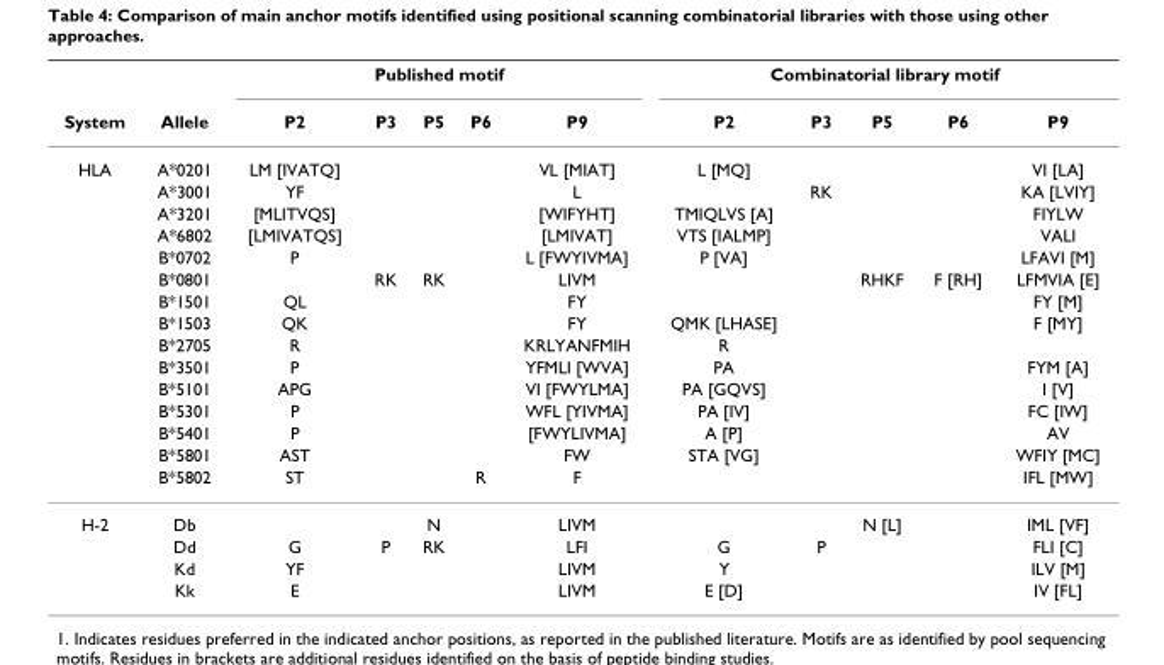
<table><thead><tr><td rowspan="2">System</td><td rowspan="2">Allele</td><td colspan="5">Published motif</td><td colspan="5">Combinatorial library motif</td></tr><tr><td>P2</td><td>P3</td><td>P5</td><td>P6</td><td>P9</td><td>P2</td><td>P3</td><td>P5</td><td>P6</td><td>P9</td></tr></thead><tbody><tr><td rowspan="15">HLA</td><td>A*0201</td><td>LM [IVATQ]</td><td></td><td></td><td></td><td>VL [MIAT]</td><td>L [MQ]</td><td></td><td></td><td></td><td>VI [LA]</td></tr><tr><td>A*3001</td><td>YF</td><td></td><td></td><td></td><td>L</td><td></td><td>RK</td><td></td><td></td><td>KA [LVIY]</td></tr><tr><td>A*3201</td><td>[MLITVQS]</td><td></td><td></td><td></td><td>[WIFYHT]</td><td>TMIQLVS [A]</td><td></td><td></td><td></td><td>FIYLW</td></tr><tr><td>A*6802</td><td>[LMIVATQS]</td><td></td><td></td><td></td><td>[LMIVAT]</td><td>VTS [IALMP]</td><td></td><td></td><td></td><td>VALI</td></tr><tr><td>B*0702</td><td>P</td><td></td><td></td><td></td><td>L [FWYIVMA]</td><td>P [VA]</td><td></td><td></td><td></td><td>LFAVI [M]</td></tr><tr><td>B*0801</td><td></td><td>RK</td><td>RK</td><td></td><td>LIVM</td><td></td><td></td><td>RHKF</td><td>F [RH]</td><td>LFMVIA [E]</td></tr><tr><td>B*1501</td><td>QL</td><td></td><td></td><td></td><td>FY</td><td></td><td></td><td></td><td></td><td>FY [M]</td></tr><tr><td>B*1503</td><td>QK</td><td></td><td></td><td></td><td>FY</td><td>QMK [LHASE]</td><td></td><td></td><td></td><td>F [MY]</td></tr><tr><td>B*2705</td><td>R</td><td></td><td></td><td></td><td>KRLYANFMIH</td><td>R</td><td></td><td></td><td></td><td></td></tr><tr><td>B*3501</td><td>P</td><td></td><td></td><td></td><td>YFMLI [WVA]</td><td>PA</td><td></td><td></td><td></td><td>FYM [A]</td></tr><tr><td>B*5101</td><td>APG</td><td></td><td></td><td></td><td>VI [FWYLMA]</td><td>PA [GQVS]</td><td></td><td></td><td></td><td>I [V]</td></tr><tr><td>B*5301</td><td>P</td><td></td><td></td><td></td><td>WFL [YIVMA]</td><td>PA [IV]</td><td></td><td></td><td></td><td>FC [IW]</td></tr><tr><td>B*5401</td><td>P</td><td></td><td></td><td></td><td>[FWYLIVMA]</td><td>A [P]</td><td></td><td></td><td></td><td>AV</td></tr><tr><td>B*5801</td><td>AST</td><td></td><td></td><td></td><td>FW</td><td>STA [VG]</td><td></td><td></td><td></td><td>WFIY [MC]</td></tr><tr><td>B*5802</td><td>ST</td><td></td><td></td><td>R</td><td>F</td><td></td><td></td><td></td><td></td><td>IFL [MW]</td></tr><tr><td rowspan="4">H-2</td><td>Db</td><td></td><td></td><td>N</td><td></td><td>LIVM</td><td></td><td></td><td>N [L]</td><td></td><td>IML [VF]</td></tr><tr><td>Dd</td><td>G</td><td>P</td><td>RK</td><td></td><td>LFI</td><td>G</td><td>P</td><td></td><td></td><td>FLI [C]</td></tr><tr><td>Kd</td><td>YF</td><td></td><td></td><td></td><td>LIVM</td><td>Y</td><td></td><td></td><td></td><td>ILV [M]</td></tr><tr><td>Kk</td><td>E</td><td></td><td></td><td></td><td>LIVM</td><td>E [D]</td><td></td><td></td><td></td><td>IV [FL]</td></tr></tbody></table>